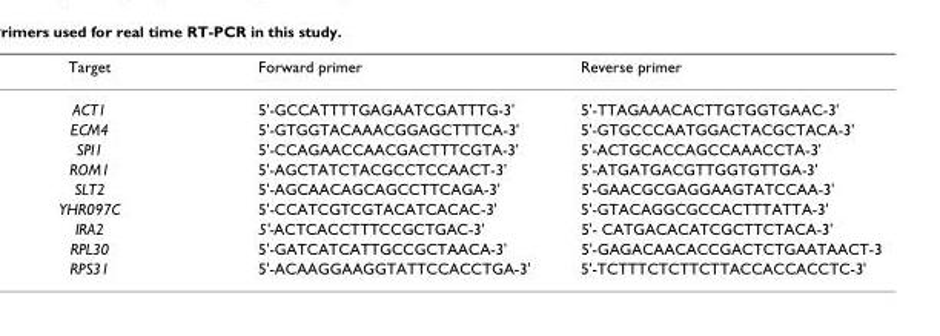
<table><thead><tr><td>Target</td><td>Forward primer</td><td>Reverse primer</td></tr></thead><tbody><tr><td>ACT1</td><td>5&#x27;-GCCATTTTGAGAATCGATTTG-3&#x27;</td><td>5&#x27;-TTAGAAACACTTGTGGTGAAC-3&#x27;</td></tr><tr><td>ECM4</td><td>5&#x27;-GTGGTACAAACGGAGCTTTCA-3&#x27;</td><td>5&#x27;-GTGCCCAATGGACTACGCTACA-3&#x27;</td></tr><tr><td>SPI1</td><td>5&#x27;-CCAGAACCAACGACTTTCGTA-3&#x27;</td><td>5&#x27;-ACTGCACCAGCCAAACCTA-3&#x27;</td></tr><tr><td>ROM1</td><td>5&#x27;-AGCTATCTACGCCTCCAACT-3&#x27;</td><td>5&#x27;-ATGATGACGTTGGTGTTGA-3&#x27;</td></tr><tr><td>SLT2</td><td>5&#x27;-AGCAACAGCAGCCTTCAGA-3&#x27;</td><td>5&#x27;-GAACGCGAGGAAGTATCCAA-3&#x27;</td></tr><tr><td>YHR097C</td><td>5&#x27;-CCATCGTCGTACATCACAC-3&#x27;</td><td>5&#x27;-GTACAGGCGCCACTTTATTA-3&#x27;</td></tr><tr><td>IRA2</td><td>5&#x27;-ACTCACCTTTCCGCTGAC-3&#x27;</td><td>5&#x27;- CATGACACATCGCTTCTACA-3&#x27;</td></tr><tr><td>RPL30</td><td>5&#x27;-GATCATCATTGCCGCTAACA-3&#x27;</td><td>5&#x27;-GAGACAACACCGACTCTGAATAACT-3</td></tr><tr><td>RPS31</td><td>5&#x27;-ACAAGGAAGGTATTCCACCTGA-3&#x27;</td><td>5&#x27;-TCTTTCTCTTCTTACCACCACCTC-3&#x27;</td></tr></tbody></table>